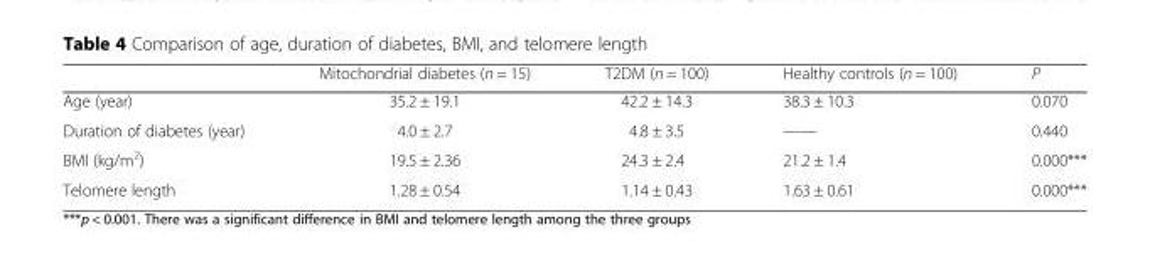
<table><thead><tr><td></td><td>Mitochondrial diabetes (n = 15)</td><td>T2DM (n = 100)</td><td>Healthy controls (n = 100)</td><td>P</td></tr></thead><tbody><tr><td>Age (year)</td><td>35.2 ± 19.1</td><td>42.2 ± 14.3</td><td>38.3 ± 10.3</td><td>0.070</td></tr><tr><td>Duration of diabetes (year)</td><td>4.0 ± 2.7</td><td>4.8 ± 3.5</td><td>——</td><td>0.440</td></tr><tr><td>BMI (kg/m<sup>2</sup>)</td><td>19.5 ± 2.36</td><td>24.3 ± 2.4</td><td>21.2 ± 1.4</td><td>0.000***</td></tr><tr><td>Telomere length</td><td>1.28 ± 0.54</td><td>1.14 ± 0.43</td><td>1.63 ± 0.61</td><td>0.000***</td></tr></tbody></table>